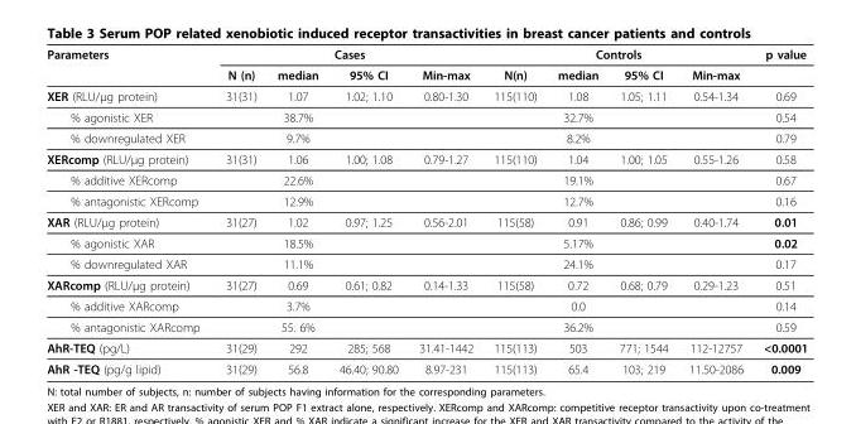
<table><thead><tr><td rowspan="2">Parameters</td><td colspan="4">Cases</td><td colspan="4">Controls</td><td rowspan="2">p value</td></tr><tr><td>N (n)</td><td>median</td><td>95% CI</td><td>Min-max</td><td>N(n)</td><td>median</td><td>95% CI</td><td>Min-max</td></tr></thead><tbody><tr><td>XER (RLU/μg protein)</td><td>31(31)</td><td>1.07</td><td>1.02; 1.10</td><td>0.80-1.30</td><td>115(110)</td><td>1.08</td><td>1.05; 1.11</td><td>0.54-1.34</td><td>0.69</td></tr><tr><td>% agonistic XER</td><td></td><td>38.7%</td><td></td><td></td><td></td><td>32.7%</td><td></td><td></td><td>0.54</td></tr><tr><td>% downregulated XER</td><td></td><td>9.7%</td><td></td><td></td><td></td><td>8.2%</td><td></td><td></td><td>0.79</td></tr><tr><td>XERcomp (RLU/μg protein)</td><td>31(31)</td><td>1.06</td><td>1.00; 1.08</td><td>0.79-1.27</td><td>115(110)</td><td>1.04</td><td>1.00; 1.05</td><td>0.55-1.26</td><td>0.58</td></tr><tr><td>% additive XERcomp</td><td></td><td>22.6%</td><td></td><td></td><td></td><td>19.1%</td><td></td><td></td><td>0.67</td></tr><tr><td>% antagonistic XERcomp</td><td></td><td>12.9%</td><td></td><td></td><td></td><td>12.7%</td><td></td><td></td><td>0.16</td></tr><tr><td>XAR (RLU/μg protein)</td><td>31(27)</td><td>1.02</td><td>0.97; 1.25</td><td>0.56-2.01</td><td>115(58)</td><td>0.91</td><td>0.86; 0.99</td><td>0.40-1.74</td><td>0.01</td></tr><tr><td>% agonistic XAR</td><td></td><td>18.5%</td><td></td><td></td><td></td><td>5.17%</td><td></td><td></td><td>0.02</td></tr><tr><td>% downregulated XAR</td><td></td><td>11.1%</td><td></td><td></td><td></td><td>24.1%</td><td></td><td></td><td>0.17</td></tr><tr><td>XARcomp (RLU/μg protein)</td><td>31(27)</td><td>0.69</td><td>0.61; 0.82</td><td>0.14-1.33</td><td>115(58)</td><td>0.72</td><td>0.68; 0.79</td><td>0.29-1.23</td><td>0.51</td></tr><tr><td>% additive XARcomp</td><td></td><td>3.7%</td><td></td><td></td><td></td><td>0.0</td><td></td><td></td><td>0.14</td></tr><tr><td>% antagonistic XARcomp</td><td></td><td>55. 6%</td><td></td><td></td><td></td><td>36.2%</td><td></td><td></td><td>0.59</td></tr><tr><td>AhR-TEQ (pg/L)</td><td>31(29)</td><td>292</td><td>285; 568</td><td>31.41-1442</td><td>115(113)</td><td>503</td><td>771; 1544</td><td>112-12757</td><td>&lt;0.0001</td></tr><tr><td>AhR -TEQ (pg/g lipid)</td><td>31(29)</td><td>56.8</td><td>46.40; 90.80</td><td>8.97-231</td><td>115(113)</td><td>65.4</td><td>103; 219</td><td>11.50-2086</td><td>0.009</td></tr></tbody></table>